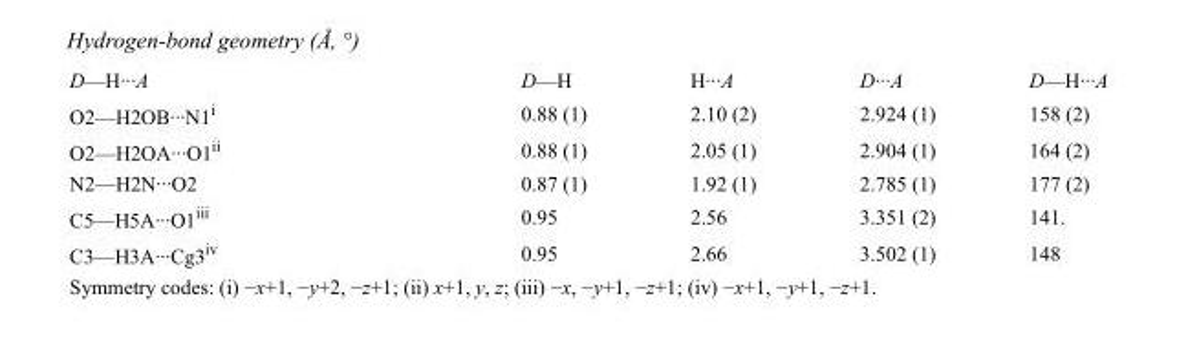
<table><tbody><tr><td>D—H···A</td><td>D—H</td><td>H···A</td><td>D···A</td><td>D—H···A</td></tr><tr><td>O2—H2OB···N1<sup>i</sup></td><td>0.88 (1)</td><td>2.10 (2)</td><td>2.924 (1)</td><td>158 (2)</td></tr><tr><td>O2—H2OA···O1<sup>ii</sup></td><td>0.88 (1)</td><td>2.05 (1)</td><td>2.904 (1)</td><td>164 (2)</td></tr><tr><td>N2—H2N···O2</td><td>0.87 (1)</td><td>1.92 (1)</td><td>2.785 (1)</td><td>177 (2)</td></tr><tr><td>C5—H5A···O1<sup>iii</sup></td><td>0.95</td><td>2.56</td><td>3.351 (2)</td><td>141.</td></tr><tr><td>C3—H3A···Cg3<sup>iv</sup></td><td>0.95</td><td>2.66</td><td>3.502 (1)</td><td>148</td></tr></tbody></table>